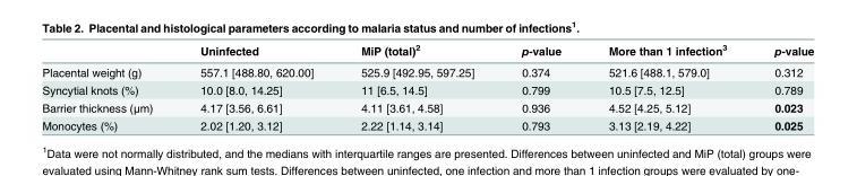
<table><thead><tr><td></td><td>Uninfected</td><td>MiP (total)<sup>2</sup></td><td>p-value</td><td>More than 1 infection<sup>3</sup></td><td>p-value</td></tr></thead><tbody><tr><td>Placental weight (g)</td><td>557.1 [488.80, 620.00]</td><td>525.9 [492.95, 597.25]</td><td>0.374</td><td>521.6 [488.1, 579.0]</td><td>0.312</td></tr><tr><td>Syncytial knots (%)</td><td>10.0 [8.0, 14.25]</td><td>11 [6.5, 14.5]</td><td>0.799</td><td>10.5 [7.5, 12.5]</td><td>0.789</td></tr><tr><td>Barrier thickness (μm)</td><td>4.17 [3.56, 6.61]</td><td>4.11 [3.61, 4.58]</td><td>0.936</td><td>4.52 [4.25, 5.12]</td><td>0.023</td></tr><tr><td>Monocytes (%)</td><td>2.02 [1.20, 3.12]</td><td>2.22 [1.14, 3.14]</td><td>0.793</td><td>3.13 [2.19, 4.22]</td><td>0.025</td></tr></tbody></table>